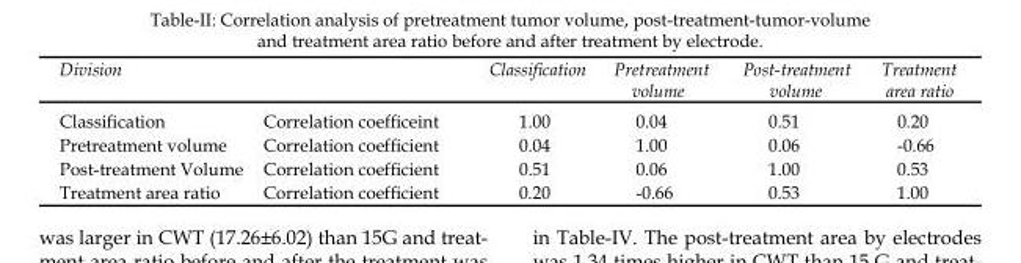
<table><thead><tr><td colspan="2">Division</td><td rowspan="2">Classification 1.00</td><td rowspan="2">Pretreatment volume 0.04</td><td rowspan="2">Post-treatment volume 0.51</td><td rowspan="2">Treatment area ratio 0.20</td></tr><tr><td>Classification</td><td>Correlation coefficeint</td></tr></thead><tbody><tr><td>Pretreatment volume</td><td>Correlation coefficient</td><td>0.04</td><td>1.00</td><td>0.06</td><td>-0.66</td></tr><tr><td>Post-treatment Volume</td><td>Correlation coefficient</td><td>0.51</td><td>0.06</td><td>1.00</td><td>0.53</td></tr><tr><td>Treatment area ratio</td><td>Correlation coefficient</td><td>0.20</td><td>-0.66</td><td>0.53</td><td>1.00</td></tr></tbody></table>